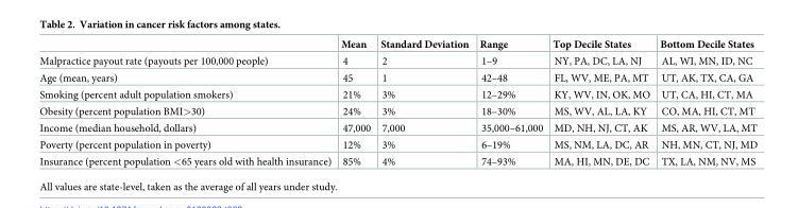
<table><thead><tr><td></td><td>Mean</td><td>Standard Deviation</td><td>Range</td><td>Top Decile States</td><td>Bottom Decile States</td></tr></thead><tbody><tr><td>Malpractice payout rate (payouts per 100,000 people)</td><td>4</td><td>2</td><td>1–9</td><td>NY, PA, DC, LA, NJ</td><td>AL, WI, MN, ID, NC</td></tr><tr><td>Age (mean, years)</td><td>45</td><td>1</td><td>42–48</td><td>FL, WV, ME, PA, MT</td><td>UT, AK, TX, CA, GA</td></tr><tr><td>Smoking (percent adult population smokers)</td><td>21%</td><td>3%</td><td>12–29%</td><td>KY, WV, IN, OK, MO</td><td>UT, CA, HI, CT, MA</td></tr><tr><td>Obesity (percent population BMI&gt;30)</td><td>24%</td><td>3%</td><td>18–30%</td><td>MS, WV, AL, LA, KY</td><td>CO, MA, HI, CT, MT</td></tr><tr><td>Income (median household, dollars)</td><td>47,000</td><td>7,000</td><td>35,000–61,000</td><td>MD, NH, NJ, CT, AK</td><td>MS, AR, WV, LA, MT</td></tr><tr><td>Poverty (percent population in poverty)</td><td>12%</td><td>3%</td><td>6–19%</td><td>MS, NM, LA, DC, AR</td><td>NH, MN, CT, NJ, MD</td></tr><tr><td>Insurance (percent population &lt;65 years old with health insurance)</td><td>85%</td><td>4%</td><td>74–93%</td><td>MA, HI, MN, DE, DC</td><td>TX, LA, NM, NV, MS</td></tr></tbody></table>